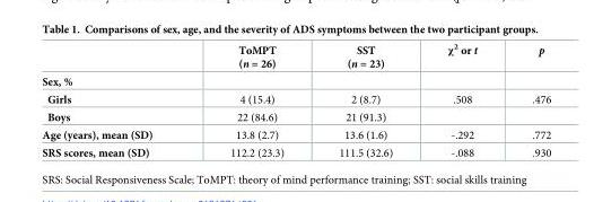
<table><thead><tr><td></td><td>ToMPT (n = 26)</td><td>SST (n = 23)</td><td>χ<sup>2</sup> or t</td><td>p</td></tr></thead><tbody><tr><td colspan="5">Sex, %</td></tr><tr><td>Girls</td><td>4 (15.4)</td><td>2 (8.7)</td><td>.508</td><td>.476</td></tr><tr><td>Boys</td><td>22 (84.6)</td><td>21 (91.3)</td><td></td><td></td></tr><tr><td>Age (years), mean (SD)</td><td>13.8 (2.7)</td><td>13.6 (1.6)</td><td>-.292</td><td>.772</td></tr><tr><td>SRS scores, mean (SD)</td><td>112.2 (23.3)</td><td>111.5 (32.6)</td><td>-.088</td><td>.930</td></tr></tbody></table>